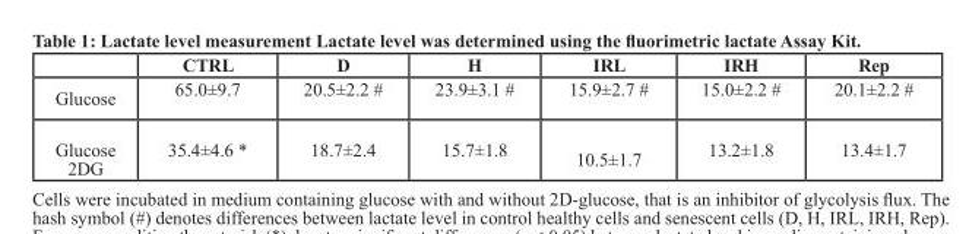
<table><thead><tr><td></td><td>CTRL</td><td>D</td><td>H</td><td>IRL</td><td>IRH</td><td>Rep</td></tr></thead><tbody><tr><td>Glucose</td><td>65.0±9.7</td><td>20.5±2.2 #</td><td>23.9±3.1 #</td><td>15.9±2.7 #</td><td>15.0±2.2 #</td><td>20.1±2.2 #</td></tr><tr><td>Glucose 2DG</td><td>35.4±4.6 *</td><td>18.7±2.4</td><td>15.7±1.8</td><td>10.5±1.7</td><td>13.2±1.8</td><td>13.4±1.7</td></tr></tbody></table>